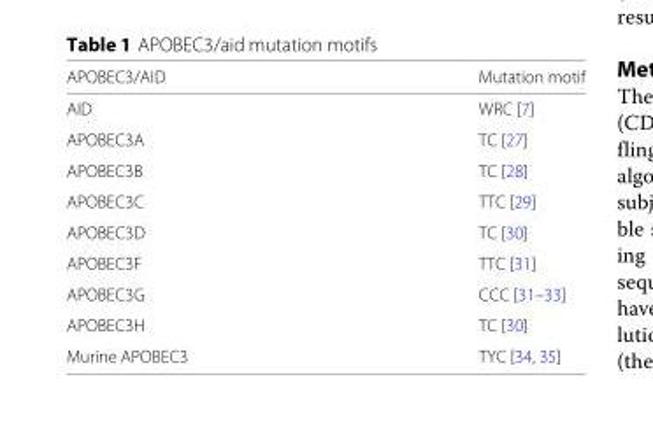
<table><thead><tr><td>APOBEC3/AID</td><td>Mutation motif</td></tr></thead><tbody><tr><td>AID</td><td>WRC [7]</td></tr><tr><td>APOBEC3A</td><td>TC [27]</td></tr><tr><td>APOBEC3B</td><td>TC [28]</td></tr><tr><td>APOBEC3C</td><td>TTC [29]</td></tr><tr><td>APOBEC3D</td><td>TC [30]</td></tr><tr><td>APOBEC3F</td><td>TTC [31]</td></tr><tr><td>APOBEC3G</td><td>CCC [31–33]</td></tr><tr><td>APOBEC3H</td><td>TC [30]</td></tr><tr><td>Murine APOBEC3</td><td>TYC [34, 35]</td></tr></tbody></table>